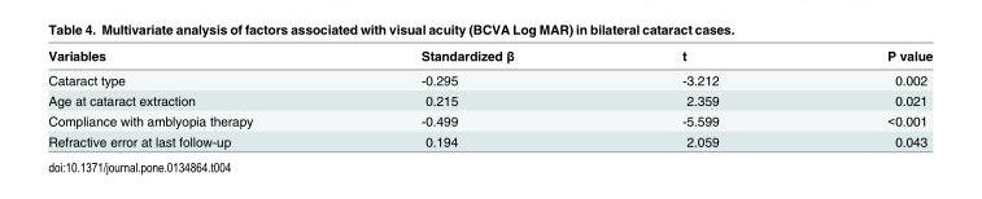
<table><thead><tr><td>Variables</td><td>Standardized β</td><td>t</td><td>P value</td></tr></thead><tbody><tr><td>Cataract type</td><td>-0.295</td><td>-3.212</td><td>0.002</td></tr><tr><td>Age at cataract extraction</td><td>0.215</td><td>2.359</td><td>0.021</td></tr><tr><td>Compliance with amblyopia therapy</td><td>-0.499</td><td>-5.599</td><td>&lt;0.001</td></tr><tr><td>Refractive error at last follow-up</td><td>0.194</td><td>2.059</td><td>0.043</td></tr></tbody></table>